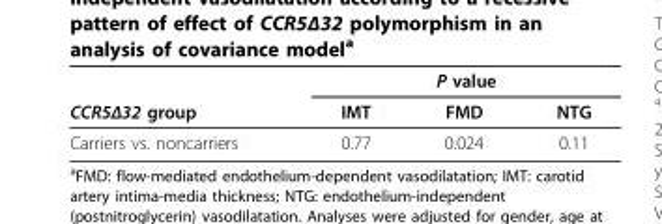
<table><thead><tr><td rowspan="2">CCR5Δ32 group</td><td colspan="3">P value</td></tr><tr><td>IMT</td><td>FMD</td><td>NTG</td></tr></thead><tbody><tr><td>Carriers vs. noncarriers</td><td>0.77</td><td>0.024</td><td>0.11</td></tr></tbody></table>